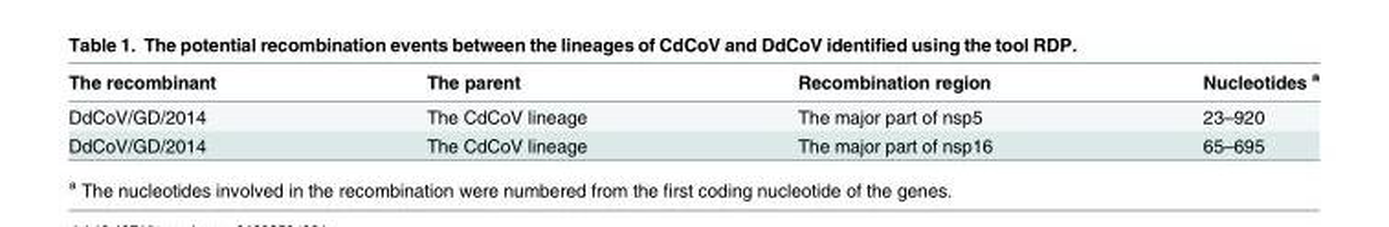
<table><thead><tr><td>The recombinant</td><td>The parent</td><td>Recombination region</td><td>Nucleotides <sup>a</sup></td></tr></thead><tbody><tr><td>DdCoV/GD/2014</td><td>The CdCoV lineage</td><td>The major part of nsp5</td><td>23–920</td></tr><tr><td>DdCoV/GD/2014</td><td>The CdCoV lineage</td><td>The major part of nsp16</td><td>65–695</td></tr></tbody></table>